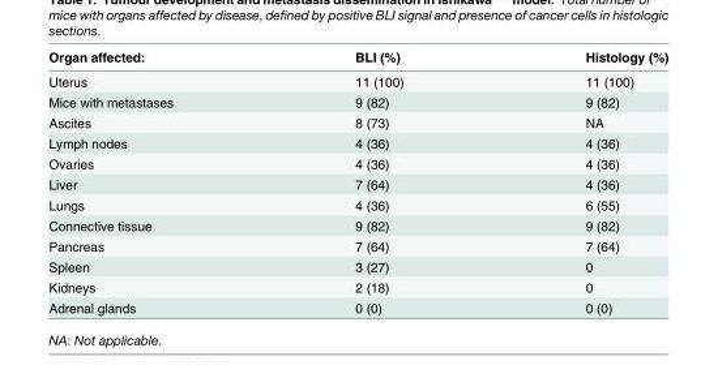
<table><thead><tr><td>Organ affected:</td><td>BLI (%)</td><td>Histology (%)</td></tr></thead><tbody><tr><td>Uterus</td><td>11 (100)</td><td>11 (100)</td></tr><tr><td>Mice with metastases</td><td>9 (82)</td><td>9 (82)</td></tr><tr><td>Ascites</td><td>8 (73)</td><td>NA</td></tr><tr><td>Lymph nodes</td><td>4 (36)</td><td>4 (36)</td></tr><tr><td>Ovaries</td><td>4 (36)</td><td>4 (36)</td></tr><tr><td>Liver</td><td>7 (64)</td><td>4 (36)</td></tr><tr><td>Lungs</td><td>4 (36)</td><td>6 (55)</td></tr><tr><td>Connective tissue</td><td>9 (82)</td><td>9 (82)</td></tr><tr><td>Pancreas</td><td>7 (64)</td><td>7 (64)</td></tr><tr><td>Spleen</td><td>3 (27)</td><td>0</td></tr><tr><td>Kidneys</td><td>2 (18)</td><td>0</td></tr><tr><td>Adrenal glands</td><td>0 (0)</td><td>0 (0)</td></tr></tbody></table>